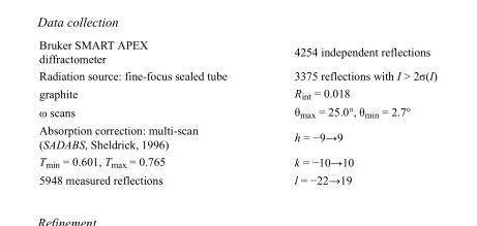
<table><tbody><tr><td>Bruker SMART APEX diffractometer</td><td>4254 independent reflections</td></tr><tr><td>Radiation source: fine-focus sealed tube</td><td>3375 reflections with I &gt; 2σ(I)</td></tr><tr><td>graphite</td><td>R<sub>int</sub> = 0.018</td></tr><tr><td>ω scans</td><td>θ<sub>max</sub> = 25.0°, θ<sub>min</sub> = 2.7°</td></tr><tr><td>Absorption correction: multi-scan (SADABS, Sheldrick, 1996)</td><td>h = −9→9</td></tr><tr><td>T<sub>min</sub> = 0.601, T<sub>max</sub> = 0.765</td><td>k = −10→10</td></tr><tr><td>5948 measured reflections</td><td>l = −22→19</td></tr></tbody></table>